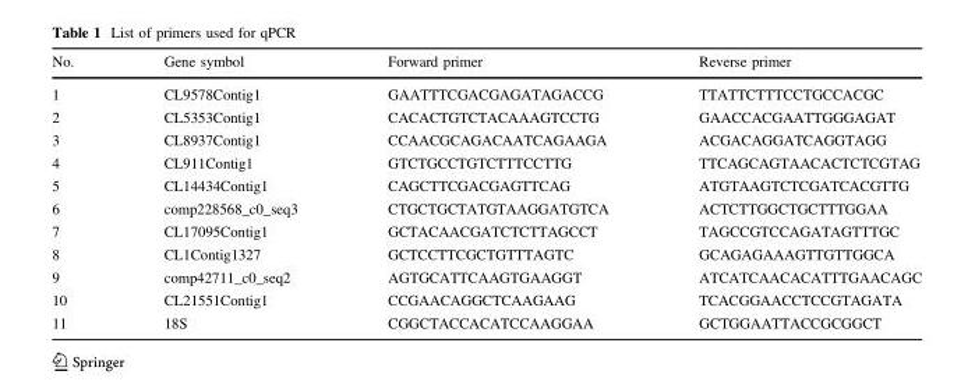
<table><thead><tr><td>No.</td><td>Gene symbol</td><td>Forward primer</td><td>Reverse primer</td></tr></thead><tbody><tr><td>1</td><td>CL9578Contig1</td><td>GAATTTCGACGAGATAGACCG</td><td>TTATTCTTTCCTGCCACGC</td></tr><tr><td>2</td><td>CL5353Contig1</td><td>CACACTGTCTACAAAGTCCTG</td><td>GAACCACGAATTGGGAGAT</td></tr><tr><td>3</td><td>CL8937Contig1</td><td>CCAACGCAGACAATCAGAAGA</td><td>ACGACAGGATCAGGTAGG</td></tr><tr><td>4</td><td>CL911Contig1</td><td>GTCTGCCTGTCTTTCCTTG</td><td>TTCAGCAGTAACACTCTCGTAG</td></tr><tr><td>5</td><td>CL14434Contig1</td><td>CAGCTTCGACGAGTTCAG</td><td>ATGTAAGTCTCGATCACGTTG</td></tr><tr><td>6</td><td>comp228568_c0_seq3</td><td>CTGCTGCTATGTAAGGATGTCA</td><td>ACTCTTGGCTGCTTTGGAA</td></tr><tr><td>7</td><td>CL17095Contig1</td><td>GCTACAACGATCTCTTAGCCT</td><td>TAGCCGTCCAGATAGTTTGC</td></tr><tr><td>8</td><td>CL1Contig1327</td><td>GCTCCTTCGCTGTTTAGTC</td><td>GCAGAGAAAGTTGTTGGCA</td></tr><tr><td>9</td><td>comp42711_c0_seq2</td><td>AGTGCATTCAAGTGAAGGT</td><td>ATCATCAACACATTTGAACAGC</td></tr><tr><td>10</td><td>CL21551Contig1</td><td>CCGAACAGGCTCAAGAAG</td><td>TCACGGAACCTCCGTAGATA</td></tr><tr><td>11</td><td>18S</td><td>CGGCTACCACATCCAAGGAA</td><td>GCTGGAATTACCGCGGCT</td></tr></tbody></table>